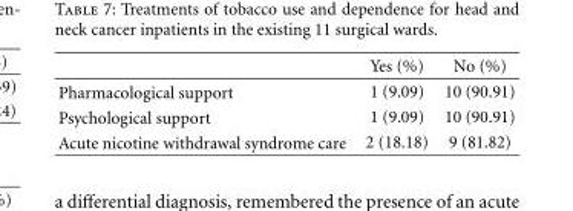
<table><thead><tr><td></td><td>Yes (%)</td><td>No (%)</td></tr></thead><tbody><tr><td>Pharmacological support</td><td>1 (9.09)</td><td>10 (90.91)</td></tr><tr><td>Psychological support</td><td>1 (9.09)</td><td>10 (90.91)</td></tr><tr><td>Acute nicotine withdrawal syndrome care</td><td>2 (18.18)</td><td>9 (81.82)</td></tr></tbody></table>